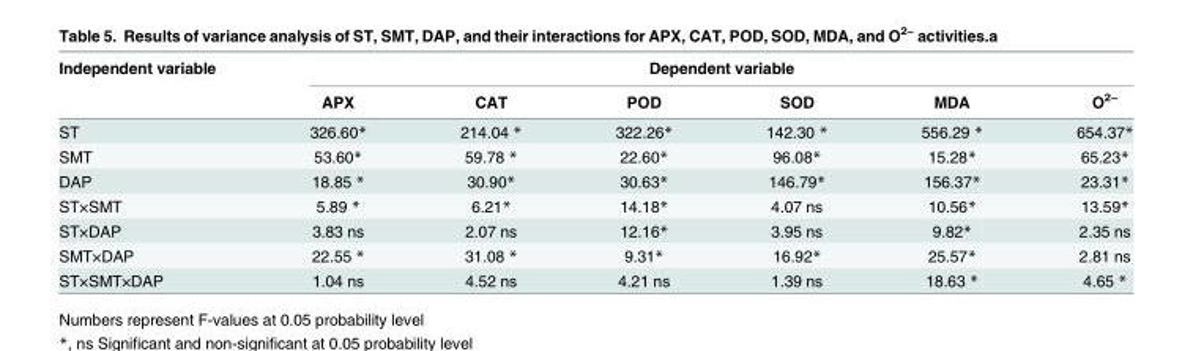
<table><thead><tr><td rowspan="2">Independent variable</td><td colspan="6">Dependent variable</td></tr><tr><td>APX</td><td>CAT</td><td>POD</td><td>SOD</td><td>MDA</td><td>O<sup>2−</sup></td></tr></thead><tbody><tr><td>ST</td><td>326.60*</td><td>214.04 *</td><td>322.26*</td><td>142.30 *</td><td>556.29 *</td><td>654.37*</td></tr><tr><td>SMT</td><td>53.60*</td><td>59.78 *</td><td>22.60*</td><td>96.08*</td><td>15.28*</td><td>65.23*</td></tr><tr><td>DAP</td><td>18.85 *</td><td>30.90*</td><td>30.63*</td><td>146.79*</td><td>156.37*</td><td>23.31*</td></tr><tr><td>ST×SMT</td><td>5.89 *</td><td>6.21*</td><td>14.18*</td><td>4.07 ns</td><td>10.56*</td><td>13.59*</td></tr><tr><td>ST×DAP</td><td>3.83 ns</td><td>2.07 ns</td><td>12.16*</td><td>3.95 ns</td><td>9.82*</td><td>2.35 ns</td></tr><tr><td>SMT×DAP</td><td>22.55 *</td><td>31.08 *</td><td>9.31*</td><td>16.92*</td><td>25.57*</td><td>2.81 ns</td></tr><tr><td>ST×SMT×DAP</td><td>1.04 ns</td><td>4.52 ns</td><td>4.21 ns</td><td>1.39 ns</td><td>18.63 *</td><td>4.65 *</td></tr></tbody></table>